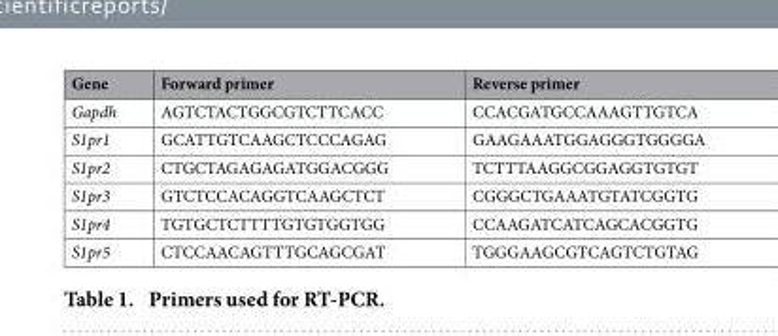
<table><thead><tr><td>Gene</td><td>Forward primer</td><td>Reverse primer</td></tr></thead><tbody><tr><td>Gapdh</td><td>AGTCTACTGGCGTCTTCACC</td><td>CCACGATGCCAAAGTTGTCA</td></tr><tr><td>S1pr1</td><td>GCATTGTCAAGCTCCCAGAG</td><td>GAAGAAATGGAGGGTGGGGA</td></tr><tr><td>S1pr2</td><td>CTGCTAGAGAGATGGACGGG</td><td>TCTTTAAGGCGGAGGTGTGT</td></tr><tr><td>S1pr3</td><td>GTCTCCACAGGTCAAGCTCT</td><td>CGGGCTGAAATGTATCGGTG</td></tr><tr><td>S1pr4</td><td>TGTGCTCTTTTGTGTGGTGG</td><td>CCAAGATCATCAGCACGGTG</td></tr><tr><td>S1pr5</td><td>CTCCAACAGTTTGCAGCGAT</td><td>TGGGAAGCGTCAGTCTGTAG</td></tr></tbody></table>